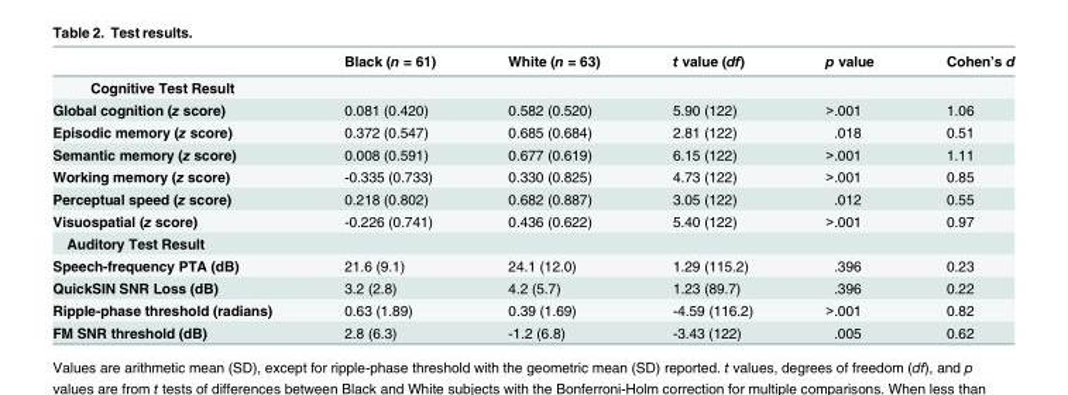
<table><thead><tr><td></td><td>Black (n = 61)</td><td>White (n = 63)</td><td>t value (df)</td><td>p value</td><td>Cohen’s d</td></tr></thead><tbody><tr><td colspan="6">Cognitive Test Result</td></tr><tr><td>Global cognition (z score)</td><td>0.081 (0.420)</td><td>0.582 (0.520)</td><td>5.90 (122)</td><td>&gt;.001</td><td>1.06</td></tr><tr><td>Episodic memory (z score)</td><td>0.372 (0.547)</td><td>0.685 (0.684)</td><td>2.81 (122)</td><td>.018</td><td>0.51</td></tr><tr><td>Semantic memory (z score)</td><td>0.008 (0.591)</td><td>0.677 (0.619)</td><td>6.15 (122)</td><td>&gt;.001</td><td>1.11</td></tr><tr><td>Working memory (z score)</td><td>-0.335 (0.733)</td><td>0.330 (0.825)</td><td>4.73 (122)</td><td>&gt;.001</td><td>0.85</td></tr><tr><td>Perceptual speed (z score)</td><td>0.218 (0.802)</td><td>0.682 (0.887)</td><td>3.05 (122)</td><td>.012</td><td>0.55</td></tr><tr><td>Visuospatial (z score)</td><td>-0.226 (0.741)</td><td>0.436 (0.622)</td><td>5.40 (122)</td><td>&gt;.001</td><td>0.97</td></tr><tr><td colspan="6">Auditory Test Result</td></tr><tr><td>Speech-frequency PTA (dB)</td><td>21.6 (9.1)</td><td>24.1 (12.0)</td><td>1.29 (115.2)</td><td>.396</td><td>0.23</td></tr><tr><td>QuickSIN SNR Loss (dB)</td><td>3.2 (2.8)</td><td>4.2 (5.7)</td><td>1.23 (89.7)</td><td>.396</td><td>0.22</td></tr><tr><td>Ripple-phase threshold (radians)</td><td>0.63 (1.89)</td><td>0.39 (1.69)</td><td>-4.59 (116.2)</td><td>&gt;.001</td><td>0.82</td></tr><tr><td>FM SNR threshold (dB)</td><td>2.8 (6.3)</td><td>-1.2 (6.8)</td><td>-3.43 (122)</td><td>.005</td><td>0.62</td></tr></tbody></table>